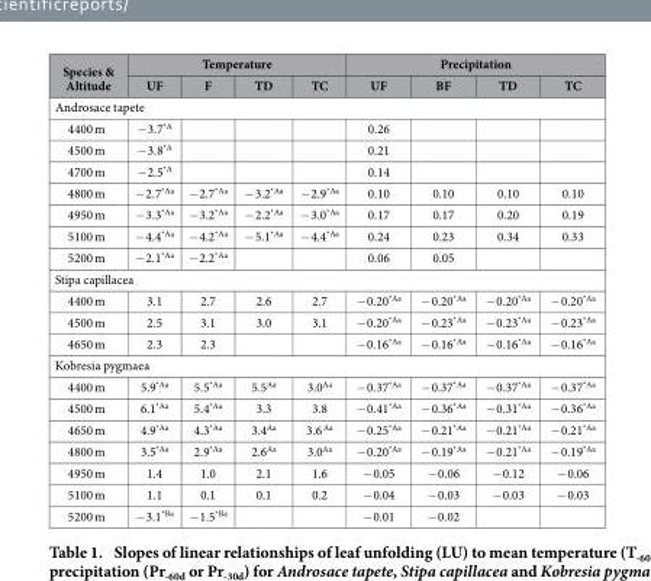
<table><thead><tr><td rowspan="2">Species &amp; Altitude</td><td colspan="4">Temperature</td><td colspan="4">Precipitation</td></tr><tr><td>UF</td><td>F</td><td>TD</td><td>TC</td><td>UF</td><td>BF</td><td>TD</td><td>TC</td></tr></thead><tbody><tr><td colspan="9">Androsace tapete</td></tr><tr><td>4400 m</td><td>− 3.7<sup>*A</sup></td><td></td><td></td><td></td><td>0.26</td><td></td><td></td><td></td></tr><tr><td>4500 m</td><td>− 3.8<sup>*A</sup></td><td></td><td></td><td></td><td>0.21</td><td></td><td></td><td></td></tr><tr><td>4700 m</td><td>− 2.5<sup>*A</sup></td><td></td><td></td><td></td><td>0.14</td><td></td><td></td><td></td></tr><tr><td>4800 m</td><td>− 2.7<sup>*Aa</sup></td><td>− 2.7<sup>*Aa</sup></td><td>− 3.2<sup>*Aa</sup></td><td>− 2.9<sup>*Aa</sup></td><td>0.10</td><td>0.10</td><td>0.10</td><td>0.10</td></tr><tr><td>4950 m</td><td>− 3.3<sup>*Aa</sup></td><td>− 3.2<sup>*Aa</sup></td><td>− 2.2<sup>*Aa</sup></td><td>− 3.0<sup>*Aa</sup></td><td>0.17</td><td>0.17</td><td>0.20</td><td>0.19</td></tr><tr><td>5100 m</td><td>− 4.4<sup>*Aa</sup></td><td>− 4.2<sup>*Aa</sup></td><td>− 5.1<sup>*Aa</sup></td><td>− 4.4<sup>*Aa</sup></td><td>0.24</td><td>0.23</td><td>0.34</td><td>0.33</td></tr><tr><td>5200 m</td><td>− 2.1<sup>*Aa</sup></td><td>− 2.2<sup>*Aa</sup></td><td></td><td></td><td>0.06</td><td>0.05</td><td></td><td></td></tr><tr><td colspan="9">Stipa capillacea</td></tr><tr><td>4400 m</td><td>3.1</td><td>2.7</td><td>2.6</td><td>2.7</td><td>− 0.20<sup>*Aa</sup></td><td>− 0.20<sup>*Aa</sup></td><td>− 0.20<sup>*Aa</sup></td><td>− 0.20<sup>*Aa</sup></td></tr><tr><td>4500 m</td><td>2.5</td><td>3.1</td><td>3.0</td><td>3.1</td><td>− 0.20<sup>*Aa</sup></td><td>− 0.23<sup>*Aa</sup></td><td>− 0.23<sup>*Aa</sup></td><td>− 0.23<sup>*Aa</sup></td></tr><tr><td>4650 m</td><td>2.3</td><td>2.3</td><td></td><td></td><td>− 0.16<sup>*Aa</sup></td><td>− 0.16<sup>*Aa</sup></td><td>− 0.16<sup>*Aa</sup></td><td>− 0.16<sup>*Aa</sup></td></tr><tr><td colspan="9">Kobresia pygmaea</td></tr><tr><td>4400 m</td><td>5.9<sup>*Aa</sup></td><td>5.5<sup>*Aa</sup></td><td>5.5<sup>Aa</sup></td><td>3.0<sup>Aa</sup></td><td>− 0.37<sup>*Aa</sup></td><td>− 0.37<sup>*Aa</sup></td><td>− 0.37<sup>*Aa</sup></td><td>− 0.37<sup>*Aa</sup></td></tr><tr><td>4500 m</td><td>6.1<sup>*Aa</sup></td><td>5.4<sup>*Aa</sup></td><td>3.3</td><td>3.8</td><td>− 0.41<sup>*Aa</sup></td><td>− 0.36<sup>*Aa</sup></td><td>− 0.31<sup>*Aa</sup></td><td>− 0.36<sup>*Aa</sup></td></tr><tr><td>4650 m</td><td>4.9<sup>*Aa</sup></td><td>4.3<sup>*Aa</sup></td><td>3.4<sup>Aa</sup></td><td>3.6 <sup>Aa</sup></td><td>− 0.25<sup>*Aa</sup></td><td>− 0.21<sup>*Aa</sup></td><td>− 0.21<sup>*Aa</sup></td><td>− 0.21<sup>*Aa</sup></td></tr><tr><td>4800 m</td><td>3.5<sup>*Aa</sup></td><td>2.9<sup>*Aa</sup></td><td>2.6<sup>Aa</sup></td><td>3.0<sup>Aa</sup></td><td>− 0.20<sup>*Aa</sup></td><td>− 0.19<sup>*Aa</sup></td><td>− 0.21<sup>*Aa</sup></td><td>− 0.19<sup>*Aa</sup></td></tr><tr><td>4950 m</td><td>1.4</td><td>1.0</td><td>2.1</td><td>1.6</td><td>− 0.05</td><td>− 0.06</td><td>− 0.12</td><td>− 0.06</td></tr><tr><td>5100 m</td><td>1.1</td><td>0.1</td><td>0.1</td><td>0.2</td><td>− 0.04</td><td>− 0.03</td><td>− 0.03</td><td>− 0.03</td></tr><tr><td>5200 m</td><td>− 3.1<sup>*Ba</sup></td><td>− 1.5<sup>*Ba</sup></td><td></td><td></td><td>− 0.01</td><td>− 0.02</td><td></td><td></td></tr></tbody></table>